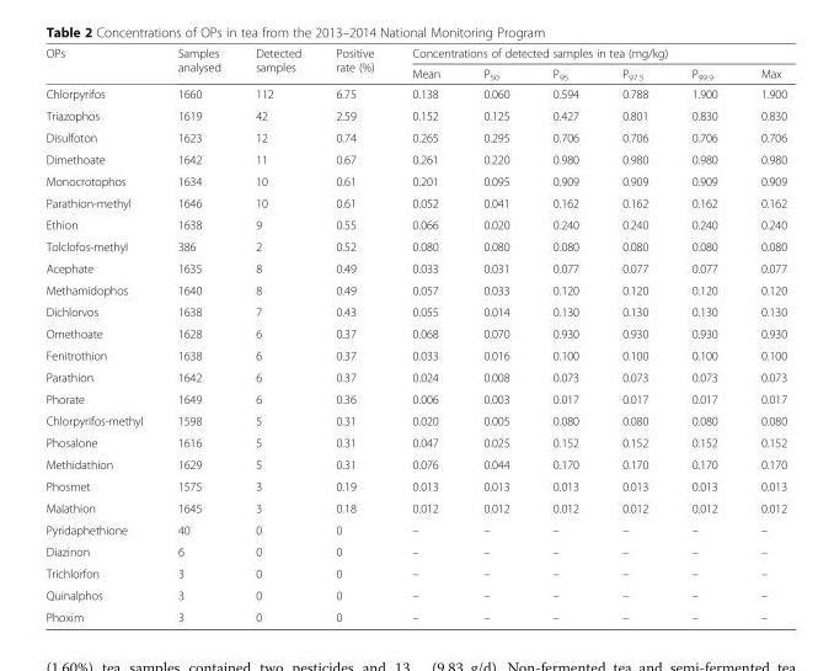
<table><thead><tr><td rowspan="2">OPs</td><td rowspan="2">Samples analysed</td><td rowspan="2">Detected samples</td><td rowspan="2">Positive rate (%)</td><td colspan="6">Concentrations of detected samples in tea (mg/kg)</td></tr><tr><td>Mean</td><td>P<sub>50</sub></td><td>P<sub>95</sub></td><td>P<sub>97.5</sub></td><td>P<sub>99.9</sub></td><td>Max</td></tr></thead><tbody><tr><td>Chlorpyrifos</td><td>1660</td><td>112</td><td>6.75</td><td>0.138</td><td>0.060</td><td>0.594</td><td>0.788</td><td>1.900</td><td>1.900</td></tr><tr><td>Triazophos</td><td>1619</td><td>42</td><td>2.59</td><td>0.152</td><td>0.125</td><td>0.427</td><td>0.801</td><td>0.830</td><td>0.830</td></tr><tr><td>Disulfoton</td><td>1623</td><td>12</td><td>0.74</td><td>0.265</td><td>0.295</td><td>0.706</td><td>0.706</td><td>0.706</td><td>0.706</td></tr><tr><td>Dimethoate</td><td>1642</td><td>11</td><td>0.67</td><td>0.261</td><td>0.220</td><td>0.980</td><td>0.980</td><td>0.980</td><td>0.980</td></tr><tr><td>Monocrotophos</td><td>1634</td><td>10</td><td>0.61</td><td>0.201</td><td>0.095</td><td>0.909</td><td>0.909</td><td>0.909</td><td>0.909</td></tr><tr><td>Parathion-methyl</td><td>1646</td><td>10</td><td>0.61</td><td>0.052</td><td>0.041</td><td>0.162</td><td>0.162</td><td>0.162</td><td>0.162</td></tr><tr><td>Ethion</td><td>1638</td><td>9</td><td>0.55</td><td>0.066</td><td>0.020</td><td>0.240</td><td>0.240</td><td>0.240</td><td>0.240</td></tr><tr><td>Tolclofos-methyl</td><td>386</td><td>2</td><td>0.52</td><td>0.080</td><td>0.080</td><td>0.080</td><td>0.080</td><td>0.080</td><td>0.080</td></tr><tr><td>Acephate</td><td>1635</td><td>8</td><td>0.49</td><td>0.033</td><td>0.031</td><td>0.077</td><td>0.077</td><td>0.077</td><td>0.077</td></tr><tr><td>Methamidophos</td><td>1640</td><td>8</td><td>0.49</td><td>0.057</td><td>0.033</td><td>0.120</td><td>0.120</td><td>0.120</td><td>0.120</td></tr><tr><td>Dichlorvos</td><td>1638</td><td>7</td><td>0.43</td><td>0.055</td><td>0.014</td><td>0.130</td><td>0.130</td><td>0.130</td><td>0.130</td></tr><tr><td>Omethoate</td><td>1628</td><td>6</td><td>0.37</td><td>0.068</td><td>0.070</td><td>0.930</td><td>0.930</td><td>0.930</td><td>0.930</td></tr><tr><td>Fenitrothion</td><td>1638</td><td>6</td><td>0.37</td><td>0.033</td><td>0.016</td><td>0.100</td><td>0.100</td><td>0.100</td><td>0.100</td></tr><tr><td>Parathion</td><td>1642</td><td>6</td><td>0.37</td><td>0.024</td><td>0.008</td><td>0.073</td><td>0.073</td><td>0.073</td><td>0.073</td></tr><tr><td>Phorate</td><td>1649</td><td>6</td><td>0.36</td><td>0.006</td><td>0.003</td><td>0.017</td><td>0.017</td><td>0.017</td><td>0.017</td></tr><tr><td>Chlorpyrifos-methyl</td><td>1598</td><td>5</td><td>0.31</td><td>0.020</td><td>0.005</td><td>0.080</td><td>0.080</td><td>0.080</td><td>0.080</td></tr><tr><td>Phosalone</td><td>1616</td><td>5</td><td>0.31</td><td>0.047</td><td>0.025</td><td>0.152</td><td>0.152</td><td>0.152</td><td>0.152</td></tr><tr><td>Methidathion</td><td>1629</td><td>5</td><td>0.31</td><td>0.076</td><td>0.044</td><td>0.170</td><td>0.170</td><td>0.170</td><td>0.170</td></tr><tr><td>Phosmet</td><td>1575</td><td>3</td><td>0.19</td><td>0.013</td><td>0.013</td><td>0.013</td><td>0.013</td><td>0.013</td><td>0.013</td></tr><tr><td>Malathion</td><td>1645</td><td>3</td><td>0.18</td><td>0.012</td><td>0.012</td><td>0.012</td><td>0.012</td><td>0.012</td><td>0.012</td></tr><tr><td>Pyridaphethione</td><td>40</td><td>0</td><td>0</td><td>–</td><td>–</td><td>–</td><td>–</td><td>–</td><td>–</td></tr><tr><td>Diazinon</td><td>6</td><td>0</td><td>0</td><td>–</td><td>–</td><td>–</td><td>–</td><td>–</td><td>–</td></tr><tr><td>Trichlorfon</td><td>3</td><td>0</td><td>0</td><td>–</td><td>–</td><td>–</td><td>–</td><td>–</td><td>–</td></tr><tr><td>Quinalphos</td><td>3</td><td>0</td><td>0</td><td>–</td><td>–</td><td>–</td><td>–</td><td>–</td><td>–</td></tr><tr><td>Phoxim</td><td>3</td><td>0</td><td>0</td><td>–</td><td>–</td><td>–</td><td>–</td><td>–</td><td>–</td></tr></tbody></table>